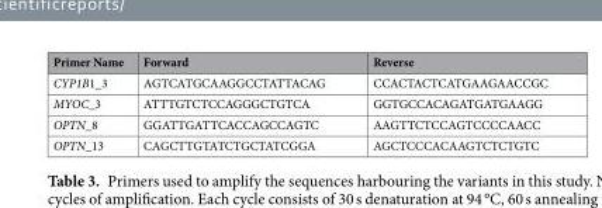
<table><thead><tr><td>Primer Name</td><td>Forward</td><td>Reverse</td></tr></thead><tbody><tr><td>CYP1B1_3</td><td>AGTCATGCAAGGCCTATTACAG</td><td>CCACTACTCATGAAGAACCGC</td></tr><tr><td>MYOC_3</td><td>ATTTGTCTCCAGGGCTGTCA</td><td>GGTGCCACAGATGATGAAGG</td></tr><tr><td>OPTN_8</td><td>GGATTGATTCACCAGCCAGTC</td><td>AAGTTCTCCAGTCCCCAACC</td></tr><tr><td>OPTN_13</td><td>CAGCTTGTATCTGCTATCGGA</td><td>AGCTCCCACAAGTCTCTGTC</td></tr></tbody></table>